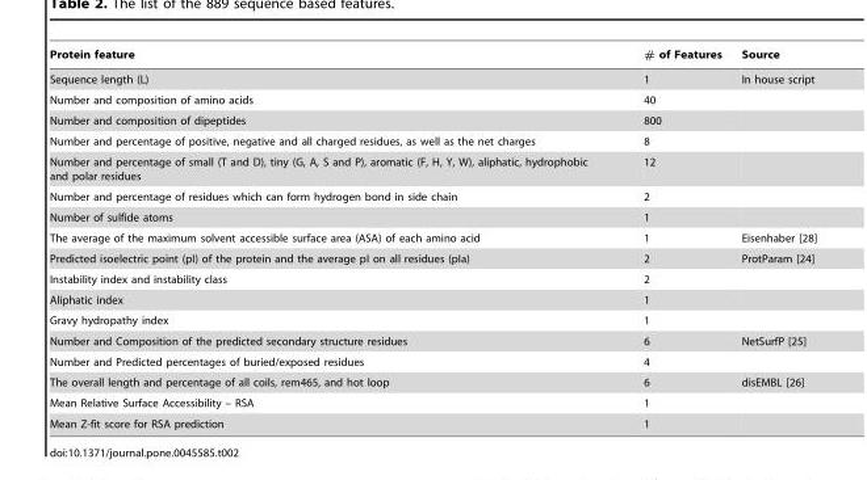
<table><thead><tr><td>Protein feature</td><td># of Features</td><td>Source</td></tr></thead><tbody><tr><td>Sequence length (L)</td><td>1</td><td>In house script</td></tr><tr><td>Number and composition of amino acids</td><td>40</td><td></td></tr><tr><td>Number and composition of dipeptides</td><td>800</td><td></td></tr><tr><td>Number and percentage of positive, negative and all charged residues, as well as the net charges</td><td>8</td><td></td></tr><tr><td>Number and percentage of small (T and D), tiny (G, A, S and P), aromatic (F, H, Y, W), aliphatic, hydrophobic and polar residues</td><td>12</td><td></td></tr><tr><td>Number and percentage of residues which can form hydrogen bond in side chain</td><td>2</td><td></td></tr><tr><td>Number of sulfide atoms</td><td>1</td><td></td></tr><tr><td>The average of the maximum solvent accessible surface area (ASA) of each amino acid</td><td>1</td><td>Eisenhaber [28]</td></tr><tr><td>Predicted isoelectric point (pI) of the protein and the average pI on all residues (pIa)</td><td>2</td><td>ProtParam [24]</td></tr><tr><td>Instability index and instability class</td><td>2</td><td></td></tr><tr><td>Aliphatic index</td><td>1</td><td></td></tr><tr><td>Gravy hydropathy index</td><td>1</td><td></td></tr><tr><td>Number and Composition of the predicted secondary structure residues</td><td>6</td><td>NetSurfP [25]</td></tr><tr><td>Number and Predicted percentages of buried/exposed residues</td><td>4</td><td></td></tr><tr><td>The overall length and percentage of all coils, rem465, and hot loop</td><td>6</td><td>disEMBL [26]</td></tr><tr><td>Mean Relative Surface Accessibility – RSA</td><td>1</td><td></td></tr><tr><td>Mean Z-fit score for RSA prediction</td><td>1</td><td></td></tr></tbody></table>